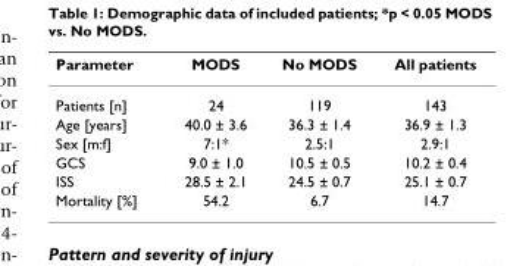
<table><thead><tr><td>Parameter</td><td>MODS</td><td>No MODS</td><td>All patients</td></tr></thead><tbody><tr><td>Patients [n]</td><td>24</td><td>119</td><td>143</td></tr><tr><td>Age [years]</td><td>40.0 ± 3.6</td><td>36.3 ± 1.4</td><td>36.9 ± 1.3</td></tr><tr><td>Sex [m:f]</td><td>7:1*</td><td>2.5:1</td><td>2.9:1</td></tr><tr><td>GCS</td><td>9.0 ± 1.0</td><td>10.5 ± 0.5</td><td>10.2 ± 0.4</td></tr><tr><td>ISS</td><td>28.5 ± 2.1</td><td>24.5 ± 0.7</td><td>25.1 ± 0.7</td></tr><tr><td>Mortality [%]</td><td>54.2</td><td>6.7</td><td>14.7</td></tr></tbody></table>